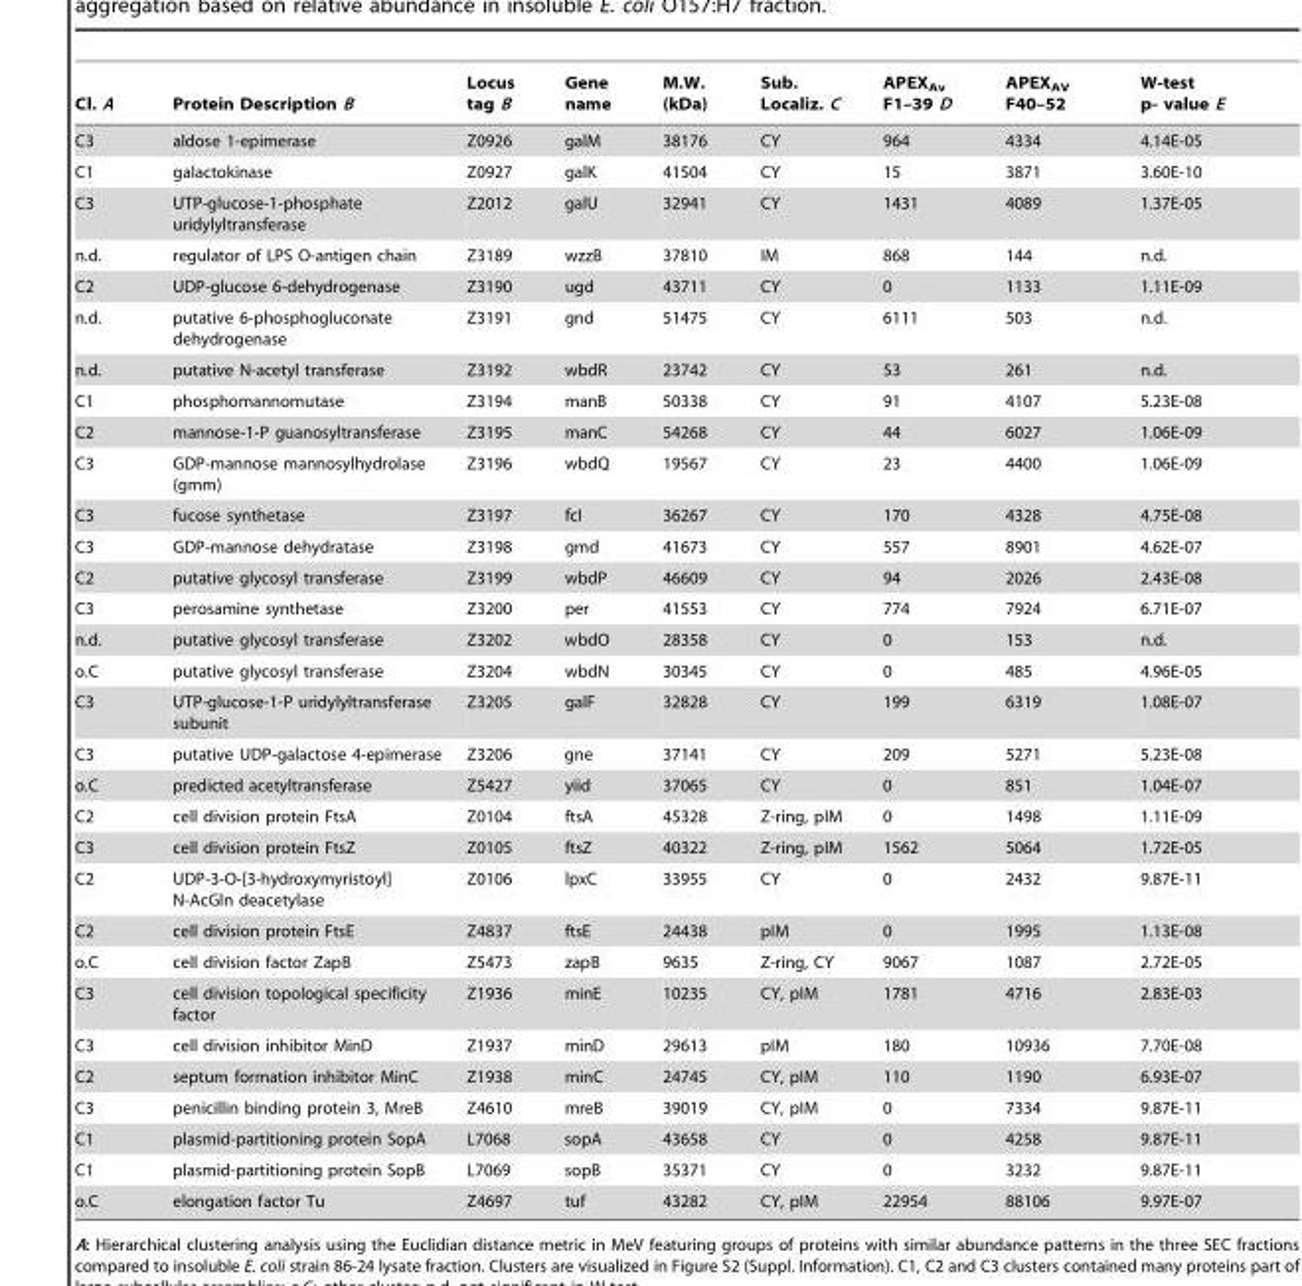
<table><thead><tr><td>Cl. A</td><td>Protein Description B</td><td>Locus tag B</td><td>Gene name</td><td>M.W. (kDa)</td><td>Sub. Localiz. C</td><td>APEX<sub>Av</sub> F1–39 D</td><td>APEX<sub>AV</sub> F40–52</td><td>W-test p- value E</td></tr></thead><tbody><tr><td>C3</td><td>aldose 1-epimerase</td><td>Z0926</td><td>galM</td><td>38176</td><td>CY</td><td>964</td><td>4334</td><td>4.14E-05</td></tr><tr><td>C1</td><td>galactokinase</td><td>Z0927</td><td>galK</td><td>41504</td><td>CY</td><td>15</td><td>3871</td><td>3.60E-10</td></tr><tr><td>C3</td><td>UTP-glucose-1-phosphate uridylyltransferase</td><td>Z2012</td><td>galU</td><td>32941</td><td>CY</td><td>1431</td><td>4089</td><td>1.37E-05</td></tr><tr><td>n.d.</td><td>regulator of LPS O-antigen chain</td><td>Z3189</td><td>wzzB</td><td>37810</td><td>IM</td><td>868</td><td>144</td><td>n.d.</td></tr><tr><td>C2</td><td>UDP-glucose 6-dehydrogenase</td><td>Z3190</td><td>ugd</td><td>43711</td><td>CY</td><td>0</td><td>1133</td><td>1.11E-09</td></tr><tr><td>n.d.</td><td>putative 6-phosphogluconate dehydrogenase</td><td>Z3191</td><td>gnd</td><td>51475</td><td>CY</td><td>6111</td><td>503</td><td>n.d.</td></tr><tr><td>n.d.</td><td>putative N-acetyl transferase</td><td>Z3192</td><td>wbdR</td><td>23742</td><td>CY</td><td>53</td><td>261</td><td>n.d.</td></tr><tr><td>C1</td><td>phosphomannomutase</td><td>Z3194</td><td>manB</td><td>50338</td><td>CY</td><td>91</td><td>4107</td><td>5.23E-08</td></tr><tr><td>C2</td><td>mannose-1-P guanosyltransferase</td><td>Z3195</td><td>manC</td><td>54268</td><td>CY</td><td>44</td><td>6027</td><td>1.06E-09</td></tr><tr><td>C3</td><td>GDP-mannose mannosylhydrolase (gmm)</td><td>Z3196</td><td>wbdQ</td><td>19567</td><td>CY</td><td>23</td><td>4400</td><td>1.06E-09</td></tr><tr><td>C3</td><td>fucose synthetase</td><td>Z3197</td><td>fcI</td><td>36267</td><td>CY</td><td>170</td><td>4328</td><td>4.75E-08</td></tr><tr><td>C3</td><td>GDP-mannose dehydratase</td><td>Z3198</td><td>gmd</td><td>41673</td><td>CY</td><td>557</td><td>8901</td><td>4.62E-07</td></tr><tr><td>C2</td><td>putative glycosyl transferase</td><td>Z3199</td><td>wbdP</td><td>46609</td><td>CY</td><td>94</td><td>2026</td><td>2.43E-08</td></tr><tr><td>C3</td><td>perosamine synthetase</td><td>Z3200</td><td>per</td><td>41553</td><td>CY</td><td>774</td><td>7924</td><td>6.71E-07</td></tr><tr><td>n.d.</td><td>putative glycosyl transferase</td><td>Z3202</td><td>wbdO</td><td>28358</td><td>CY</td><td>0</td><td>153</td><td>n.d.</td></tr><tr><td>o.C</td><td>putative glycosyl transferase</td><td>Z3204</td><td>wbdN</td><td>30345</td><td>CY</td><td>0</td><td>485</td><td>4.96E-05</td></tr><tr><td>C3</td><td>UTP-glucose-1-P uridylyltransferase subunit</td><td>Z3205</td><td>galF</td><td>32828</td><td>CY</td><td>199</td><td>6319</td><td>1.08E-07</td></tr><tr><td>C3</td><td>putative UDP-galactose 4-epimerase</td><td>Z3206</td><td>gne</td><td>37141</td><td>CY</td><td>209</td><td>5271</td><td>5.23E-08</td></tr><tr><td>o.C</td><td>predicted acetyltransferase</td><td>Z5427</td><td>yiid</td><td>37065</td><td>CY</td><td>0</td><td>851</td><td>1.04E-07</td></tr><tr><td>C2</td><td>cell division protein FtsA</td><td>Z0104</td><td>ftsA</td><td>45328</td><td>Z-ring, pIM</td><td>0</td><td>1498</td><td>1.11E-09</td></tr><tr><td>C3</td><td>cell division protein FtsZ</td><td>Z0105</td><td>ftsZ</td><td>40322</td><td>Z-ring, pIM</td><td>1562</td><td>5064</td><td>1.72E-05</td></tr><tr><td>C2</td><td>UDP-3-O-[3-hydroxymyristoyl] N-AcGln deacetylase</td><td>Z0106</td><td>lpxC</td><td>33955</td><td>CY</td><td>0</td><td>2432</td><td>9.87E-11</td></tr><tr><td>C2</td><td>cell division protein FtsE</td><td>Z4837</td><td>ftsE</td><td>24438</td><td>pIM</td><td>0</td><td>1995</td><td>1.13E-08</td></tr><tr><td>o.C</td><td>cell division factor ZapB</td><td>Z5473</td><td>zapB</td><td>9635</td><td>Z-ring, CY</td><td>9067</td><td>1087</td><td>2.72E-05</td></tr><tr><td>C3</td><td>cell division topological specificity factor</td><td>Z1936</td><td>minE</td><td>10235</td><td>CY, pIM</td><td>1781</td><td>4716</td><td>2.83E-03</td></tr><tr><td>C3</td><td>cell division inhibitor MinD</td><td>Z1937</td><td>minD</td><td>29613</td><td>pIM</td><td>180</td><td>10936</td><td>7.70E-08</td></tr><tr><td>C2</td><td>septum formation inhibitor MinC</td><td>Z1938</td><td>minC</td><td>24745</td><td>CY, pIM</td><td>110</td><td>1190</td><td>6.93E-07</td></tr><tr><td>C3</td><td>penicillin binding protein 3, MreB</td><td>Z4610</td><td>mreB</td><td>39019</td><td>CY, pIM</td><td>0</td><td>7334</td><td>9.87E-11</td></tr><tr><td>C1</td><td>plasmid-partitioning protein SopA</td><td>L7068</td><td>sopA</td><td>43658</td><td>CY</td><td>0</td><td>4258</td><td>9.87E-11</td></tr><tr><td>C1</td><td>plasmid-partitioning protein SopB</td><td>L7069</td><td>sopB</td><td>35371</td><td>CY</td><td>0</td><td>3232</td><td>9.87E-11</td></tr><tr><td>o.C</td><td>elongation factor Tu</td><td>Z4697</td><td>tuf</td><td>43282</td><td>CY, pIM</td><td>22954</td><td>88106</td><td>9.97E-07</td></tr></tbody></table>